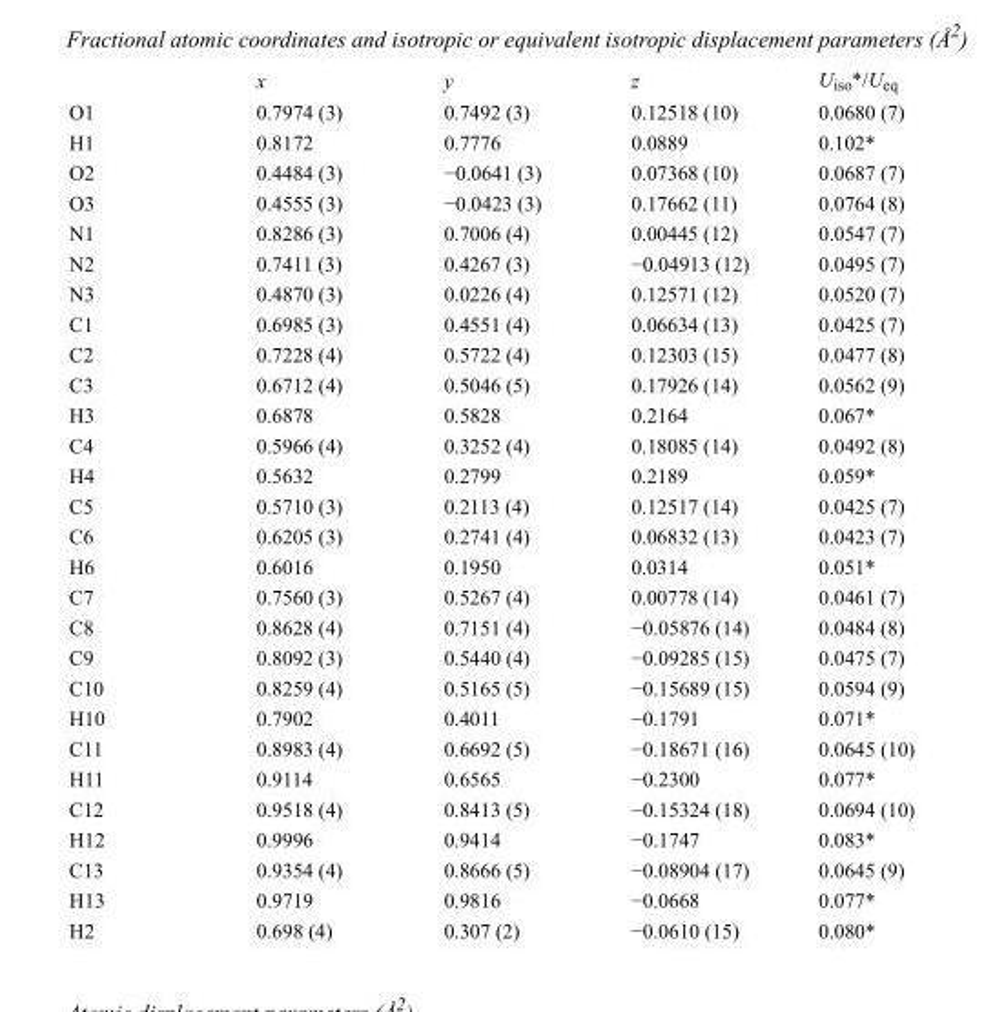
<table><thead><tr><td></td><td>x</td><td>y</td><td>z</td><td>U<sub>iso</sub>*/U<sub>eq</sub></td></tr></thead><tbody><tr><td>O1</td><td>0.7974 (3)</td><td>0.7492 (3)</td><td>0.12518 (10)</td><td>0.0680 (7)</td></tr><tr><td>H1</td><td>0.8172</td><td>0.7776</td><td>0.0889</td><td>0.102*</td></tr><tr><td>O2</td><td>0.4484 (3)</td><td>−0.0641 (3)</td><td>0.07368 (10)</td><td>0.0687 (7)</td></tr><tr><td>O3</td><td>0.4555 (3)</td><td>−0.0423 (3)</td><td>0.17662 (11)</td><td>0.0764 (8)</td></tr><tr><td>N1</td><td>0.8286 (3)</td><td>0.7006 (4)</td><td>0.00445 (12)</td><td>0.0547 (7)</td></tr><tr><td>N2</td><td>0.7411 (3)</td><td>0.4267 (3)</td><td>−0.04913 (12)</td><td>0.0495 (7)</td></tr><tr><td>N3</td><td>0.4870 (3)</td><td>0.0226 (4)</td><td>0.12571 (12)</td><td>0.0520 (7)</td></tr><tr><td>C1</td><td>0.6985 (3)</td><td>0.4551 (4)</td><td>0.06634 (13)</td><td>0.0425 (7)</td></tr><tr><td>C2</td><td>0.7228 (4)</td><td>0.5722 (4)</td><td>0.12303 (15)</td><td>0.0477 (8)</td></tr><tr><td>C3</td><td>0.6712 (4)</td><td>0.5046 (5)</td><td>0.17926 (14)</td><td>0.0562 (9)</td></tr><tr><td>H3</td><td>0.6878</td><td>0.5828</td><td>0.2164</td><td>0.067*</td></tr><tr><td>C4</td><td>0.5966 (4)</td><td>0.3252 (4)</td><td>0.18085 (14)</td><td>0.0492 (8)</td></tr><tr><td>H4</td><td>0.5632</td><td>0.2799</td><td>0.2189</td><td>0.059*</td></tr><tr><td>C5</td><td>0.5710 (3)</td><td>0.2113 (4)</td><td>0.12517 (14)</td><td>0.0425 (7)</td></tr><tr><td>C6</td><td>0.6205 (3)</td><td>0.2741 (4)</td><td>0.06832 (13)</td><td>0.0423 (7)</td></tr><tr><td>H6</td><td>0.6016</td><td>0.1950</td><td>0.0314</td><td>0.051*</td></tr><tr><td>C7</td><td>0.7560 (3)</td><td>0.5267 (4)</td><td>0.00778 (14)</td><td>0.0461 (7)</td></tr><tr><td>C8</td><td>0.8628 (4)</td><td>0.7151 (4)</td><td>−0.05876 (14)</td><td>0.0484 (8)</td></tr><tr><td>C9</td><td>0.8092 (3)</td><td>0.5440 (4)</td><td>−0.09285 (15)</td><td>0.0475 (7)</td></tr><tr><td>C10</td><td>0.8259 (4)</td><td>0.5165 (5)</td><td>−0.15689 (15)</td><td>0.0594 (9)</td></tr><tr><td>H10</td><td>0.7902</td><td>0.4011</td><td>−0.1791</td><td>0.071*</td></tr><tr><td>C11</td><td>0.8983 (4)</td><td>0.6692 (5)</td><td>−0.18671 (16)</td><td>0.0645 (10)</td></tr><tr><td>H11</td><td>0.9114</td><td>0.6565</td><td>−0.2300</td><td>0.077*</td></tr><tr><td>C12</td><td>0.9518 (4)</td><td>0.8413 (5)</td><td>−0.15324 (18)</td><td>0.0694 (10)</td></tr><tr><td>H12</td><td>0.9996</td><td>0.9414</td><td>−0.1747</td><td>0.083*</td></tr><tr><td>C13</td><td>0.9354 (4)</td><td>0.8666 (5)</td><td>−0.08904 (17)</td><td>0.0645 (9)</td></tr><tr><td>H13</td><td>0.9719</td><td>0.9816</td><td>−0.0668</td><td>0.077*</td></tr><tr><td>H2</td><td>0.698 (4)</td><td>0.307 (2)</td><td>−0.0610 (15)</td><td>0.080*</td></tr></tbody></table>